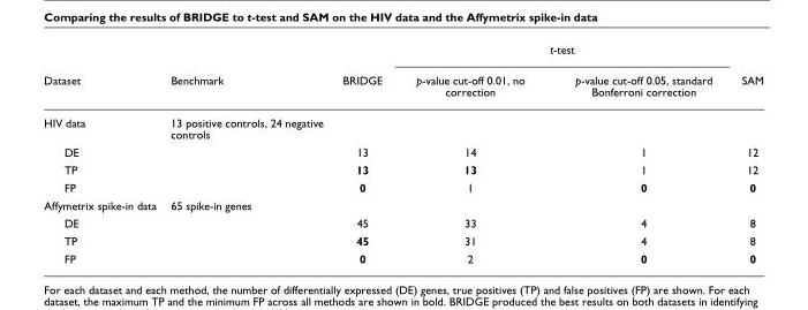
<table><thead><tr><td rowspan="2">Dataset</td><td rowspan="2">Benchmark</td><td rowspan="2">BRIDGE</td><td colspan="2">t-test</td><td rowspan="2">SAM</td></tr><tr><td>p-value cut-off 0.01, no correction</td><td>p-value cut-off 0.05, standard Bonferroni correction</td></tr></thead><tbody><tr><td>HIV data</td><td>13 positive controls, 24 negative controls</td><td></td><td></td><td></td><td></td></tr><tr><td>DE</td><td></td><td>13</td><td>14</td><td>1</td><td>12</td></tr><tr><td>TP</td><td></td><td>13</td><td>13</td><td>1</td><td>12</td></tr><tr><td>FP</td><td></td><td>0</td><td>1</td><td>0</td><td>0</td></tr><tr><td>Affymetrix spike-in data</td><td>65 spike-in genes</td><td></td><td></td><td></td><td></td></tr><tr><td>DE</td><td></td><td>45</td><td>33</td><td>4</td><td>8</td></tr><tr><td>TP</td><td></td><td>45</td><td>31</td><td>4</td><td>8</td></tr><tr><td>FP</td><td></td><td>0</td><td>2</td><td>0</td><td>0</td></tr></tbody></table>